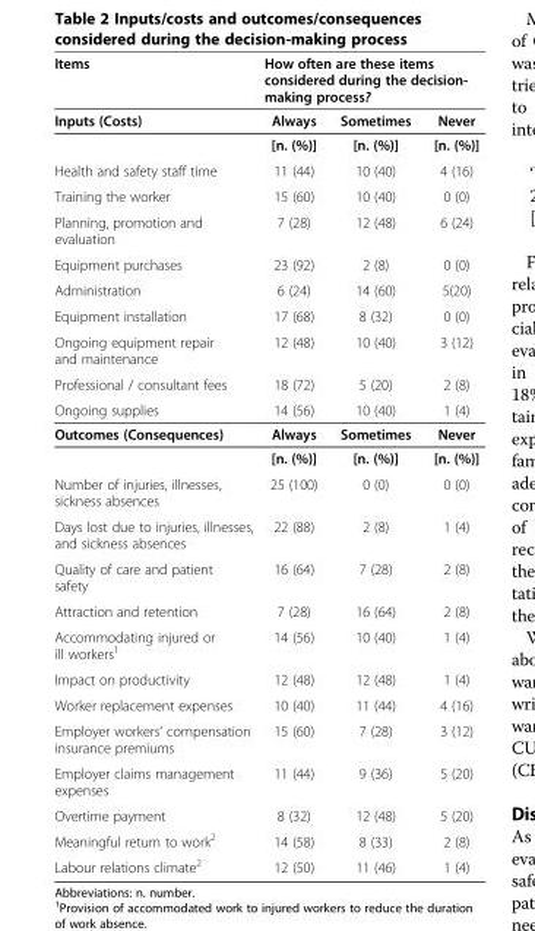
<table><thead><tr><td rowspan="2">Items Inputs (Costs)</td><td colspan="3">How often are these items considered during the decision- making process?</td></tr><tr><td>Always</td><td>Sometimes</td><td>Never</td></tr></thead><tbody><tr><td></td><td>[n. (%)]</td><td>[n. (%)]</td><td>[n. (%)]</td></tr><tr><td>Health and safety staff time</td><td>11 (44)</td><td>10 (40)</td><td>4 (16)</td></tr><tr><td>Training the worker</td><td>15 (60)</td><td>10 (40)</td><td>0 (0)</td></tr><tr><td>Planning, promotion and evaluation</td><td>7 (28)</td><td>12 (48)</td><td>6 (24)</td></tr><tr><td>Equipment purchases</td><td>23 (92)</td><td>2 (8)</td><td>0 (0)</td></tr><tr><td>Administration</td><td>6 (24)</td><td>14 (60)</td><td>5(20)</td></tr><tr><td>Equipment installation</td><td>17 (68)</td><td>8 (32)</td><td>0 (0)</td></tr><tr><td>Ongoing equipment repair and maintenance</td><td>12 (48)</td><td>10 (40)</td><td>3 (12)</td></tr><tr><td>Professional / consultant fees</td><td>18 (72)</td><td>5 (20)</td><td>2 (8)</td></tr><tr><td>Ongoing supplies</td><td>14 (56)</td><td>10 (40)</td><td>1 (4)</td></tr><tr><td rowspan="2">Outcomes (Consequences)</td><td>Always</td><td>Sometimes</td><td>Never</td></tr><tr><td>[n. (%)]</td><td>[n. (%)]</td><td>[n. (%)]</td></tr><tr><td>Number of injuries, illnesses, sickness absences</td><td>25 (100)</td><td>0 (0)</td><td>0 (0)</td></tr><tr><td>Days lost due to injuries, illnesses, and sickness absences</td><td>22 (88)</td><td>2 (8)</td><td>1 (4)</td></tr><tr><td>Quality of care and patient safety</td><td>16 (64)</td><td>7 (28)</td><td>2 (8)</td></tr><tr><td>Attraction and retention</td><td>7 (28)</td><td>16 (64)</td><td>2 (8)</td></tr><tr><td>Accommodating injured or ill workers<sup>1</sup></td><td>14 (56)</td><td>10 (40)</td><td>1 (4)</td></tr><tr><td>Impact on productivity</td><td>12 (48)</td><td>12 (48)</td><td>1 (4)</td></tr><tr><td>Worker replacement expenses</td><td>10 (40)</td><td>11 (44)</td><td>4 (16)</td></tr><tr><td>Employer workers’ compensation insurance premiums</td><td>15 (60)</td><td>7 (28)</td><td>3 (12)</td></tr><tr><td>Employer claims management expenses</td><td>11 (44)</td><td>9 (36)</td><td>5 (20)</td></tr><tr><td>Overtime payment</td><td>8 (32)</td><td>12 (48)</td><td>5 (20)</td></tr><tr><td>Meaningful return to work<sup>2</sup></td><td>14 (58)</td><td>8 (33)</td><td>2 (8)</td></tr><tr><td>Labour relations climate<sup>2</sup></td><td>12 (50)</td><td>11 (46)</td><td>1 (4)</td></tr></tbody></table>